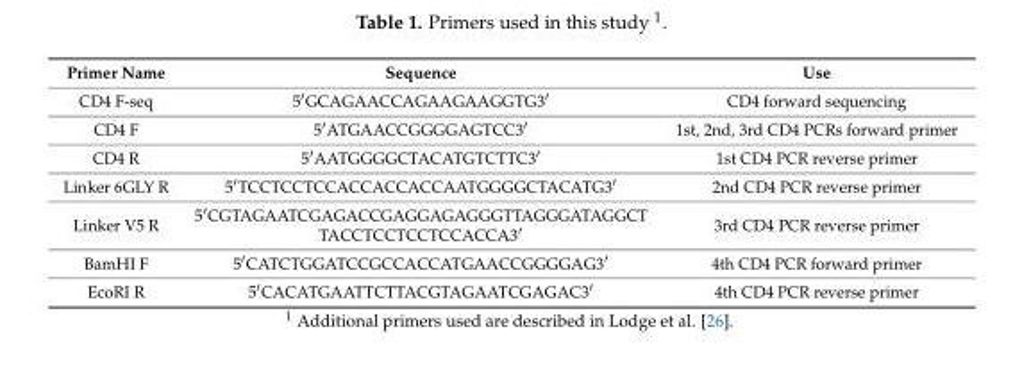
<table><thead><tr><td>Primer Name</td><td>Sequence</td><td>Use</td></tr></thead><tbody><tr><td>CD4 F-seq</td><td>5′GCAGAACCAGAAGAAGGTG3′</td><td>CD4 forward sequencing</td></tr><tr><td>CD4 F</td><td>5′ATGAACCGGGGAGTCC3′</td><td>1st, 2nd, 3rd CD4 PCRs forward primer</td></tr><tr><td>CD4 R</td><td>5′AATGGGGCTACATGTCTTC3′</td><td>1st CD4 PCR reverse primer</td></tr><tr><td>Linker 6GLY R</td><td>5′TCCTCCTCCACCACCACCAATGGGGCTACATG3′</td><td>2nd CD4 PCR reverse primer</td></tr><tr><td>Linker V5 R</td><td>5′CGTAGAATCGAGACCGAGGAGAGGGTTAGGGATAGGCT TACCTCCTCCTCCACCA3′</td><td>3rd CD4 PCR reverse primer</td></tr><tr><td>BamHI F</td><td>5′CATCTGGATCCGCCACCATGAACCGGGGAG3′</td><td>4th CD4 PCR forward primer</td></tr><tr><td>EcoRI R</td><td>5′CACATGAATTCTTACGTAGAATCGAGAC3′</td><td>4th CD4 PCR reverse primer</td></tr></tbody></table>